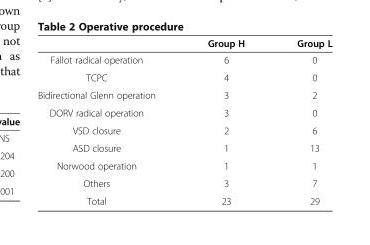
<table><thead><tr><td></td><td>Group H</td><td>Group L</td></tr></thead><tbody><tr><td>Fallot radical operation</td><td>6</td><td>0</td></tr><tr><td>TCPC</td><td>4</td><td>0</td></tr><tr><td>Bidirectional Glenn operation</td><td>3</td><td>2</td></tr><tr><td>DORV radical operation</td><td>3</td><td>0</td></tr><tr><td>VSD closure</td><td>2</td><td>6</td></tr><tr><td>ASD closure</td><td>1</td><td>13</td></tr><tr><td>Norwood operation</td><td>1</td><td>1</td></tr><tr><td>Others</td><td>3</td><td>7</td></tr><tr><td>Total</td><td>23</td><td>29</td></tr></tbody></table>